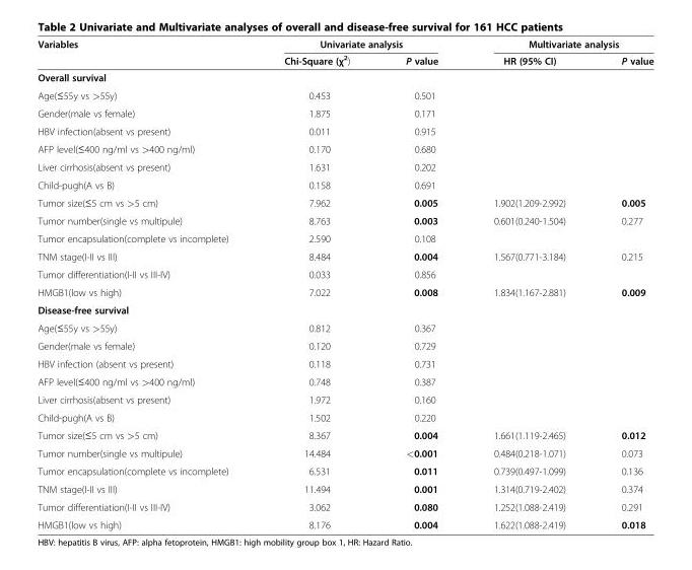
<table><thead><tr><td rowspan="2">Variables</td><td colspan="2">Univariate analysis</td><td colspan="2">Multivariate analysis</td></tr><tr><td>Chi-Square (χ<sup>2</sup>)</td><td>P value</td><td>HR (95% CI)</td><td>P value</td></tr></thead><tbody><tr><td colspan="5">Overall survival</td></tr><tr><td>Age(≤55y vs &gt;55y)</td><td>0.453</td><td>0.501</td><td></td><td></td></tr><tr><td>Gender(male vs female)</td><td>1.875</td><td>0.171</td><td></td><td></td></tr><tr><td>HBV infection(absent vs present)</td><td>0.011</td><td>0.915</td><td></td><td></td></tr><tr><td>AFP level(≤400 ng/ml vs &gt;400 ng/ml)</td><td>0.170</td><td>0.680</td><td></td><td></td></tr><tr><td>Liver cirrhosis(absent vs present)</td><td>1.631</td><td>0.202</td><td></td><td></td></tr><tr><td>Child-pugh(A vs B)</td><td>0.158</td><td>0.691</td><td></td><td></td></tr><tr><td>Tumor size(≤5 cm vs &gt;5 cm)</td><td>7.962</td><td>0.005</td><td>1.902(1.209-2.992)</td><td>0.005</td></tr><tr><td>Tumor number(single vs multipule)</td><td>8.763</td><td>0.003</td><td>0.601(0.240-1.504)</td><td>0.277</td></tr><tr><td>Tumor encapsulation(complete vs incomplete)</td><td>2.590</td><td>0.108</td><td></td><td></td></tr><tr><td>TNM stage(I-II vs III)</td><td>8.484</td><td>0.004</td><td>1.567(0.771-3.184)</td><td>0.215</td></tr><tr><td>Tumor differentiation(I-II vs III-IV)</td><td>0.033</td><td>0.856</td><td></td><td></td></tr><tr><td>HMGB1(low vs high)</td><td>7.022</td><td>0.008</td><td>1.834(1.167-2.881)</td><td>0.009</td></tr><tr><td colspan="5">Disease-free survival</td></tr><tr><td>Age(≤55y vs &gt;55y)</td><td>0.812</td><td>0.367</td><td></td><td></td></tr><tr><td>Gender(male vs female)</td><td>0.120</td><td>0.729</td><td></td><td></td></tr><tr><td>HBV infection (absent vs present)</td><td>0.118</td><td>0.731</td><td></td><td></td></tr><tr><td>AFP level(≤400 ng/ml vs &gt;400 ng/ml)</td><td>0.748</td><td>0.387</td><td></td><td></td></tr><tr><td>Liver cirrhosis(absent vs present)</td><td>1.972</td><td>0.160</td><td></td><td></td></tr><tr><td>Child-pugh(A vs B)</td><td>1.502</td><td>0.220</td><td></td><td></td></tr><tr><td>Tumor size(≤5 cm vs &gt;5 cm)</td><td>8.367</td><td>0.004</td><td>1.661(1.119-2.465)</td><td>0.012</td></tr><tr><td>Tumor number(single vs multipule)</td><td>14.484</td><td>&lt;0.001</td><td>0.484(0.218-1.071)</td><td>0.073</td></tr><tr><td>Tumor encapsulation(complete vs incomplete)</td><td>6.531</td><td>0.011</td><td>0.739(0.497-1.099)</td><td>0.136</td></tr><tr><td>TNM stage(I-II vs III)</td><td>11.494</td><td>0.001</td><td>1.314(0.719-2.402)</td><td>0.374</td></tr><tr><td>Tumor differentiation(I-II vs III-IV)</td><td>3.062</td><td>0.080</td><td>1.252(1.088-2.419)</td><td>0.291</td></tr><tr><td>HMGB1(low vs high)</td><td>8.176</td><td>0.004</td><td>1.622(1.088-2.419)</td><td>0.018</td></tr></tbody></table>